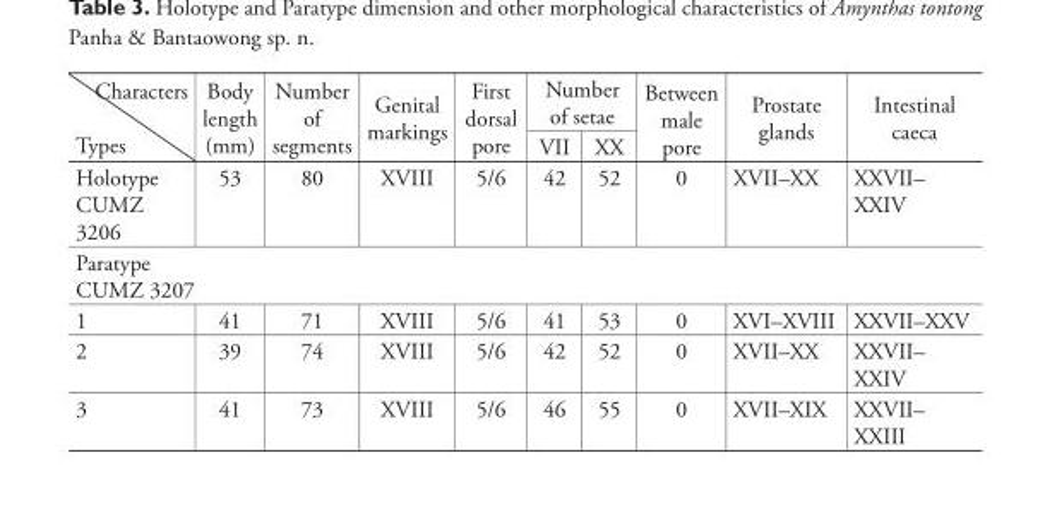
<table><thead><tr><td rowspan="2">Characters Types</td><td rowspan="2">Body length (mm)</td><td rowspan="2">Number of segments</td><td rowspan="2">Genital markings</td><td rowspan="2">First dorsal pore</td><td colspan="2">Number of setae</td><td rowspan="2">Between male pore</td><td rowspan="2">Prostate glands</td><td rowspan="2">Intestinal caeca</td></tr><tr><td>VII</td><td>XX</td></tr></thead><tbody><tr><td>Holotype CUMZ 3206</td><td>53</td><td>80</td><td>XVIII</td><td>5/6</td><td>42</td><td>52</td><td>0</td><td>XVII–XX</td><td>XXVII– XXIV</td></tr><tr><td colspan="10">Paratype CUMZ 3207</td></tr><tr><td>1</td><td>41</td><td>71</td><td>XVIII</td><td>5/6</td><td>41</td><td>53</td><td>0</td><td>XVI–XVIII</td><td>XXVII–XXV</td></tr><tr><td>2</td><td>39</td><td>74</td><td>XVIII</td><td>5/6</td><td>42</td><td>52</td><td>0</td><td>XVII–XX</td><td>XXVII– XXIV</td></tr><tr><td>3</td><td>41</td><td>73</td><td>XVIII</td><td>5/6</td><td>46</td><td>55</td><td>0</td><td>XVII–XIX</td><td>XXVII– XXIII</td></tr></tbody></table>